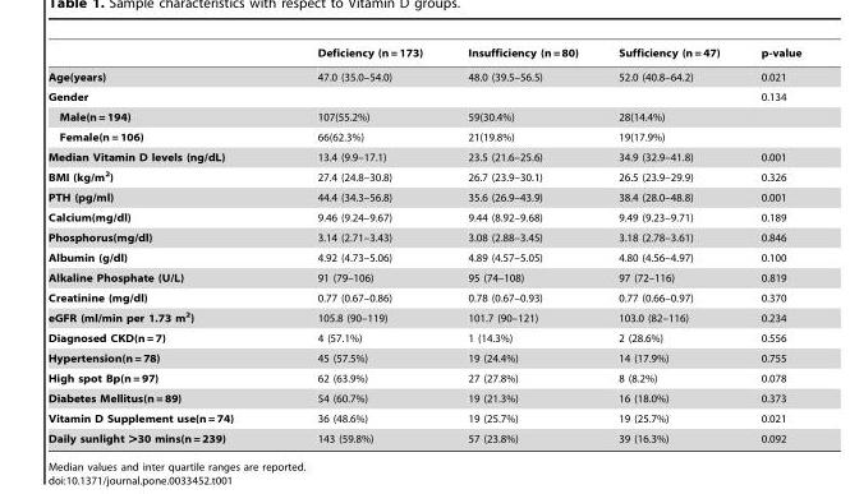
<table><thead><tr><td></td><td>Deficiency (n = 173)</td><td>Insufficiency (n = 80)</td><td>Sufficiency (n = 47)</td><td>p-value</td></tr></thead><tbody><tr><td>Age(years)</td><td>47.0 (35.0–54.0)</td><td>48.0 (39.5–56.5)</td><td>52.0 (40.8–64.2)</td><td>0.021</td></tr><tr><td>Gender</td><td></td><td></td><td></td><td>0.134</td></tr><tr><td>Male(n = 194)</td><td>107(55.2%)</td><td>59(30.4%)</td><td>28(14.4%)</td><td></td></tr><tr><td>Female(n = 106)</td><td>66(62.3%)</td><td>21(19.8%)</td><td>19(17.9%)</td><td></td></tr><tr><td>Median Vitamin D levels (ng/dL)</td><td>13.4 (9.9–17.1)</td><td>23.5 (21.6–25.6)</td><td>34.9 (32.9–41.8)</td><td>0.001</td></tr><tr><td>BMI (kg/m<sup>2</sup>)</td><td>27.4 (24.8–30.8)</td><td>26.7 (23.9–30.1)</td><td>26.5 (23.9–29.9)</td><td>0.326</td></tr><tr><td>PTH (pg/ml)</td><td>44.4 (34.3–56.8)</td><td>35.6 (26.9–43.9)</td><td>38.4 (28.0–48.8)</td><td>0.001</td></tr><tr><td>Calcium(mg/dl)</td><td>9.46 (9.24–9.67)</td><td>9.44 (8.92–9.68)</td><td>9.49 (9.23–9.71)</td><td>0.189</td></tr><tr><td>Phosphorus(mg/dl)</td><td>3.14 (2.71–3.43)</td><td>3.08 (2.88–3.45)</td><td>3.18 (2.78–3.61)</td><td>0.846</td></tr><tr><td>Albumin (g/dl)</td><td>4.92 (4.73–5.06)</td><td>4.89 (4.57–5.05)</td><td>4.80 (4.56–4.97)</td><td>0.100</td></tr><tr><td>Alkaline Phosphate (U/L)</td><td>91 (79–106)</td><td>95 (74–108)</td><td>97 (72–116)</td><td>0.819</td></tr><tr><td>Creatinine (mg/dl)</td><td>0.77 (0.67–0.86)</td><td>0.78 (0.67–0.93)</td><td>0.77 (0.66–0.97)</td><td>0.370</td></tr><tr><td>eGFR (ml/min per 1.73 m<sup>2</sup>)</td><td>105.8 (90–119)</td><td>101.7 (90–121)</td><td>103.0 (82–116)</td><td>0.234</td></tr><tr><td>Diagnosed CKD(n = 7)</td><td>4 (57.1%)</td><td>1 (14.3%)</td><td>2 (28.6%)</td><td>0.556</td></tr><tr><td>Hypertension(n = 78)</td><td>45 (57.5%)</td><td>19 (24.4%)</td><td>14 (17.9%)</td><td>0.755</td></tr><tr><td>High spot Bp(n = 97)</td><td>62 (63.9%)</td><td>27 (27.8%)</td><td>8 (8.2%)</td><td>0.078</td></tr><tr><td>Diabetes Mellitus(n = 89)</td><td>54 (60.7%)</td><td>19 (21.3%)</td><td>16 (18.0%)</td><td>0.373</td></tr><tr><td>Vitamin D Supplement use(n = 74)</td><td>36 (48.6%)</td><td>19 (25.7%)</td><td>19 (25.7%)</td><td>0.021</td></tr><tr><td>Daily sunlight &gt;30 mins(n = 239)</td><td>143 (59.8%)</td><td>57 (23.8%)</td><td>39 (16.3%)</td><td>0.092</td></tr></tbody></table>